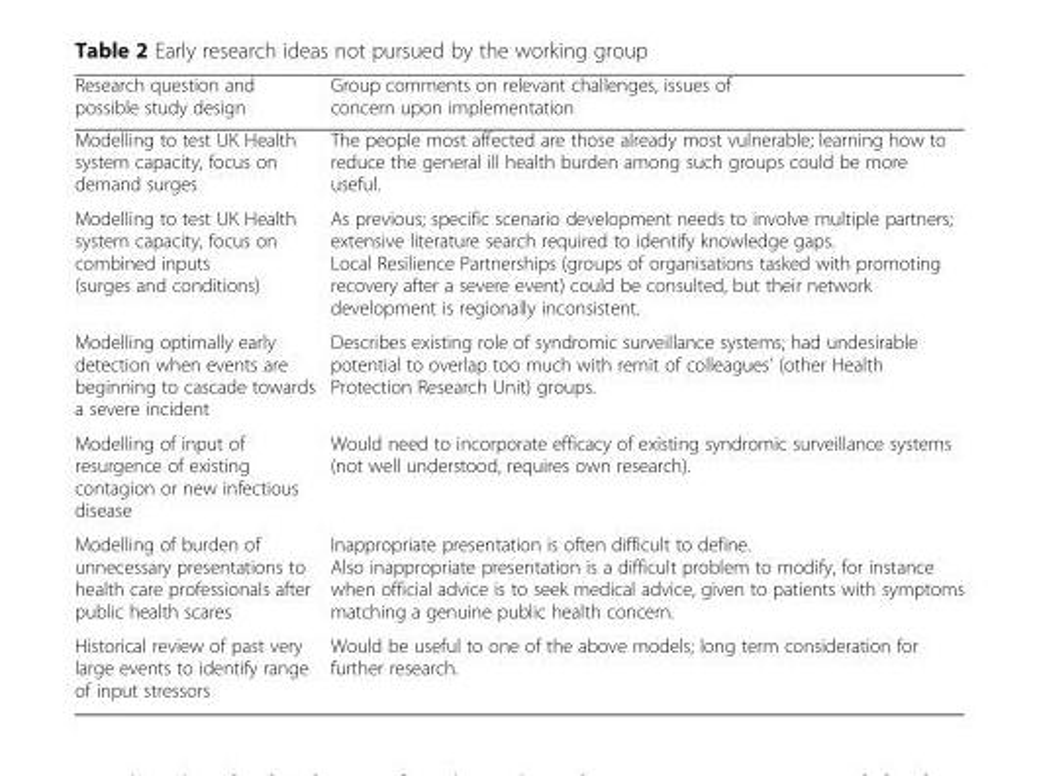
<table><thead><tr><td>Research question and possible study design</td><td>Group comments on relevant challenges, issues of concern upon implementation</td></tr></thead><tbody><tr><td>Modelling to test UK Health system capacity, focus on demand surges</td><td>The people most affected are those already most vulnerable; learning how to reduce the general ill health burden among such groups could be more useful.</td></tr><tr><td>Modelling to test UK Health system capacity, focus on combined inputs (surges and conditions)</td><td>As previous; specific scenario development needs to involve multiple partners; extensive literature search required to identify knowledge gaps. Local Resilience Partnerships (groups of organisations tasked with promoting recovery after a severe event) could be consulted, but their network development is regionally inconsistent.</td></tr><tr><td>Modelling optimally early detection when events are beginning to cascade towards a severe incident</td><td>Describes existing role of syndromic surveillance systems; had undesirable potential to overlap too much with remit of colleagues&#x27; (other Health Protection Research Unit) groups.</td></tr><tr><td>Modelling of input of resurgence of existing contagion or new infectious disease</td><td>Would need to incorporate efficacy of existing syndromic surveillance systems (not well understood, requires own research).</td></tr><tr><td>Modelling of burden of unnecessary presentations to health care professionals after public health scares</td><td>Inappropriate presentation is often difficult to define. Also inappropriate presentation is a difficult problem to modify, for instance when official advice is to seek medical advice, given to patients with symptoms matching a genuine public health concern.</td></tr><tr><td>Historical review of past very large events to identify range of input stressors</td><td>Would be useful to one of the above models; long term consideration for further research.</td></tr></tbody></table>